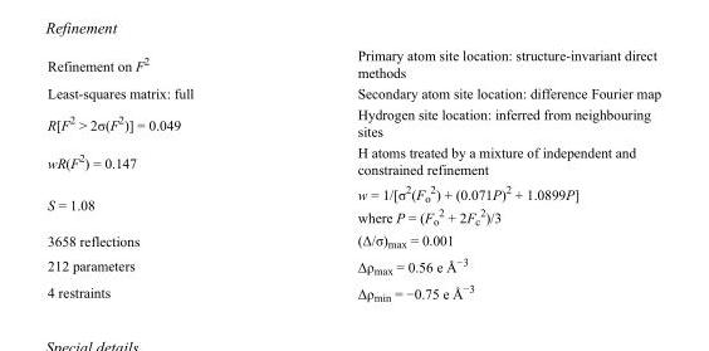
<table><tbody><tr><td>Refinement on F<sup>2</sup></td><td>Primary atom site location: structure-invariant direct methods</td></tr><tr><td>Least-squares matrix: full</td><td>Secondary atom site location: difference Fourier map</td></tr><tr><td>R[F<sup>2</sup> &gt; 2σ(F<sup>2</sup>)] = 0.049</td><td>Hydrogen site location: inferred from neighbouring sites</td></tr><tr><td>wR(F<sup>2</sup>) = 0.147</td><td>H atoms treated by a mixture of independent and constrained refinement</td></tr><tr><td>S = 1.08</td><td>w = 1/[σ<sup>2</sup>(F<sub>o</sub> <sup>2</sup>) + (0.071P)<sup>2</sup> + 1.0899P] where P = (F<sub>o</sub> <sup>2</sup> + 2F<sub>c</sub> <sup>2</sup>)/3</td></tr><tr><td>3658 reflections</td><td>(Δ/σ)<sub>max</sub> = 0.001</td></tr><tr><td>212 parameters</td><td>Δρ<sub>max</sub> = 0.56 e Å<sup>−3</sup></td></tr><tr><td>4 restraints</td><td>Δρ<sub>min</sub> = −0.75 e Å<sup>−3</sup></td></tr></tbody></table>